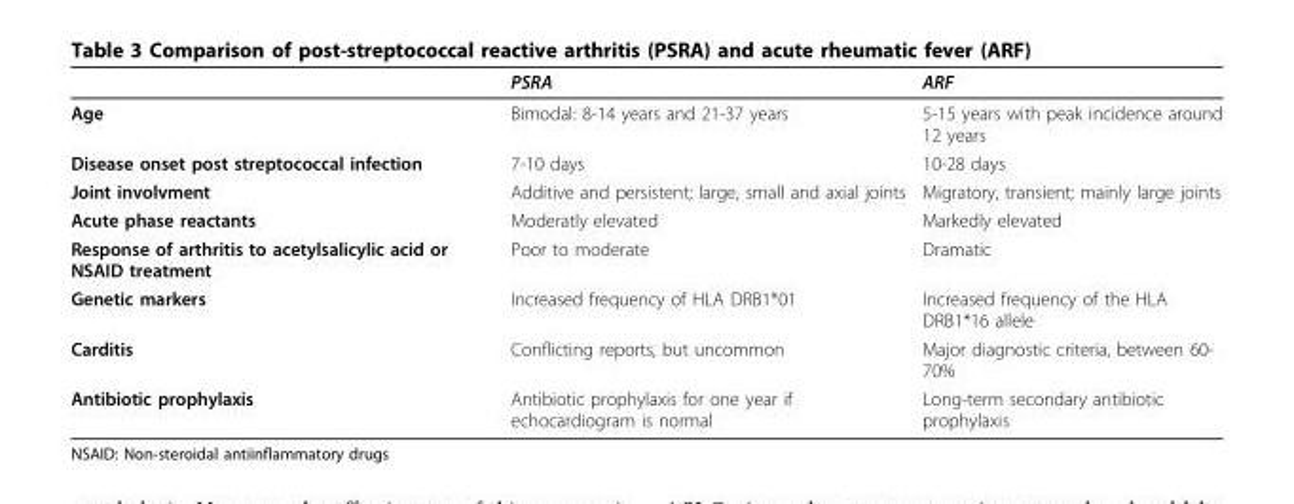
<table><thead><tr><td></td><td>PSRA</td><td>ARF</td></tr></thead><tbody><tr><td>Age</td><td>Bimodal: 8-14 years and 21-37 years</td><td>5-15 years with peak incidence around 12 years</td></tr><tr><td>Disease onset post streptococcal infection</td><td>7-10 days</td><td>10-28 days</td></tr><tr><td>Joint involvment</td><td>Additive and persistent; large, small and axial joints</td><td>Migratory, transient; mainly large joints</td></tr><tr><td>Acute phase reactants</td><td>Moderatly elevated</td><td>Markedly elevated</td></tr><tr><td>Response of arthritis to acetylsalicylic acid or NSAID treatment</td><td>Poor to moderate</td><td>Dramatic</td></tr><tr><td>Genetic markers</td><td>Increased frequency of HLA DRB1*01</td><td>Increased frequency of the HLA DRB1*16 allele</td></tr><tr><td>Carditis</td><td>Conflicting reports, but uncommon</td><td>Major diagnostic criteria, between 60- 70%</td></tr><tr><td>Antibiotic prophylaxis</td><td>Antibiotic prophylaxis for one year if echocardiogram is normal</td><td>Long-term secondary antibiotic prophylaxis</td></tr></tbody></table>